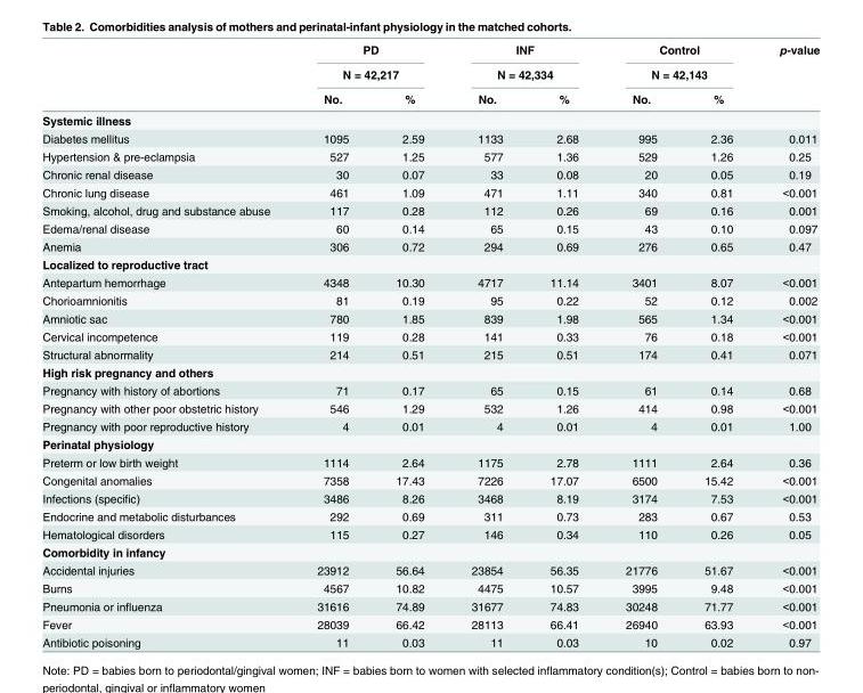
<table><thead><tr><td rowspan="3"></td><td rowspan="2" colspan="2">PD N = 42,217</td><td rowspan="2" colspan="2">INF N = 42,334</td><td rowspan="2" colspan="2">Control N = 42,143</td><td rowspan="3">p-value</td></tr><tr></tr><tr><td>No.</td><td>%</td><td>No.</td><td>%</td><td>No.</td><td>%</td></tr></thead><tbody><tr><td colspan="8">Systemic illness</td></tr><tr><td>Diabetes mellitus</td><td>1095</td><td>2.59</td><td>1133</td><td>2.68</td><td>995</td><td>2.36</td><td>0.011</td></tr><tr><td>Hypertension &amp; pre-eclampsia</td><td>527</td><td>1.25</td><td>577</td><td>1.36</td><td>529</td><td>1.26</td><td>0.25</td></tr><tr><td>Chronic renal disease</td><td>30</td><td>0.07</td><td>33</td><td>0.08</td><td>20</td><td>0.05</td><td>0.19</td></tr><tr><td>Chronic lung disease</td><td>461</td><td>1.09</td><td>471</td><td>1.11</td><td>340</td><td>0.81</td><td>&lt;0.001</td></tr><tr><td>Smoking, alcohol, drug and substance abuse</td><td>117</td><td>0.28</td><td>112</td><td>0.26</td><td>69</td><td>0.16</td><td>0.001</td></tr><tr><td>Edema/renal disease</td><td>60</td><td>0.14</td><td>65</td><td>0.15</td><td>43</td><td>0.10</td><td>0.097</td></tr><tr><td>Anemia</td><td>306</td><td>0.72</td><td>294</td><td>0.69</td><td>276</td><td>0.65</td><td>0.47</td></tr><tr><td colspan="8">Localized to reproductive tract</td></tr><tr><td>Antepartum hemorrhage</td><td>4348</td><td>10.30</td><td>4717</td><td>11.14</td><td>3401</td><td>8.07</td><td>&lt;0.001</td></tr><tr><td>Chorioamnionitis</td><td>81</td><td>0.19</td><td>95</td><td>0.22</td><td>52</td><td>0.12</td><td>0.002</td></tr><tr><td>Amniotic sac</td><td>780</td><td>1.85</td><td>839</td><td>1.98</td><td>565</td><td>1.34</td><td>&lt;0.001</td></tr><tr><td>Cervical incompetence</td><td>119</td><td>0.28</td><td>141</td><td>0.33</td><td>76</td><td>0.18</td><td>&lt;0.001</td></tr><tr><td>Structural abnormality</td><td>214</td><td>0.51</td><td>215</td><td>0.51</td><td>174</td><td>0.41</td><td>0.071</td></tr><tr><td colspan="8">High risk pregnancy and others</td></tr><tr><td>Pregnancy with history of abortions</td><td>71</td><td>0.17</td><td>65</td><td>0.15</td><td>61</td><td>0.14</td><td>0.68</td></tr><tr><td>Pregnancy with other poor obstetric history</td><td>546</td><td>1.29</td><td>532</td><td>1.26</td><td>414</td><td>0.98</td><td>&lt;0.001</td></tr><tr><td>Pregnancy with poor reproductive history</td><td>4</td><td>0.01</td><td>4</td><td>0.01</td><td>4</td><td>0.01</td><td>1.00</td></tr><tr><td colspan="8">Perinatal physiology</td></tr><tr><td>Preterm or low birth weight</td><td>1114</td><td>2.64</td><td>1175</td><td>2.78</td><td>1111</td><td>2.64</td><td>0.36</td></tr><tr><td>Congenital anomalies</td><td>7358</td><td>17.43</td><td>7226</td><td>17.07</td><td>6500</td><td>15.42</td><td>&lt;0.001</td></tr><tr><td>Infections (specific)</td><td>3486</td><td>8.26</td><td>3468</td><td>8.19</td><td>3174</td><td>7.53</td><td>&lt;0.001</td></tr><tr><td>Endocrine and metabolic disturbances</td><td>292</td><td>0.69</td><td>311</td><td>0.73</td><td>283</td><td>0.67</td><td>0.53</td></tr><tr><td>Hematological disorders</td><td>115</td><td>0.27</td><td>146</td><td>0.34</td><td>110</td><td>0.26</td><td>0.05</td></tr><tr><td colspan="8">Comorbidity in infancy</td></tr><tr><td>Accidental injuries</td><td>23912</td><td>56.64</td><td>23854</td><td>56.35</td><td>21776</td><td>51.67</td><td>&lt;0.001</td></tr><tr><td>Burns</td><td>4567</td><td>10.82</td><td>4475</td><td>10.57</td><td>3995</td><td>9.48</td><td>&lt;0.001</td></tr><tr><td>Pneumonia or influenza</td><td>31616</td><td>74.89</td><td>31677</td><td>74.83</td><td>30248</td><td>71.77</td><td>&lt;0.001</td></tr><tr><td>Fever</td><td>28039</td><td>66.42</td><td>28113</td><td>66.41</td><td>26940</td><td>63.93</td><td>&lt;0.001</td></tr><tr><td>Antibiotic poisoning</td><td>11</td><td>0.03</td><td>11</td><td>0.03</td><td>10</td><td>0.02</td><td>0.97</td></tr></tbody></table>